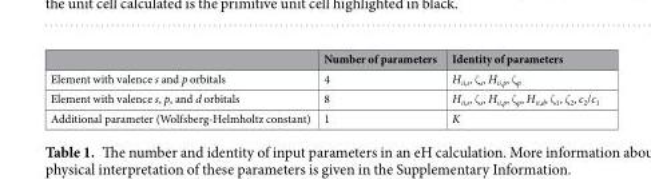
<table><thead><tr><td></td><td>Number of parameters</td><td>Identity of parameters</td></tr></thead><tbody><tr><td>Element with valence s and p orbitals</td><td>4</td><td>H<sub>ii,s</sub>, ζ<sub>s</sub>, H<sub>ii,p</sub>, ζ<sub>p</sub></td></tr><tr><td>Element with valence s, p, and d orbitals</td><td>8</td><td>H<sub>ii,s</sub>, ζ<sub>s</sub>, H<sub>ii,p</sub>, ζ<sub>p</sub>, H<sub>ii,d</sub>, ζ<sub>1</sub>, ζ<sub>2</sub>, c<sub>2</sub>/c<sub>1</sub></td></tr><tr><td>Additional parameter (Wolfsberg-Helmholtz constant)</td><td>1</td><td>K</td></tr></tbody></table>